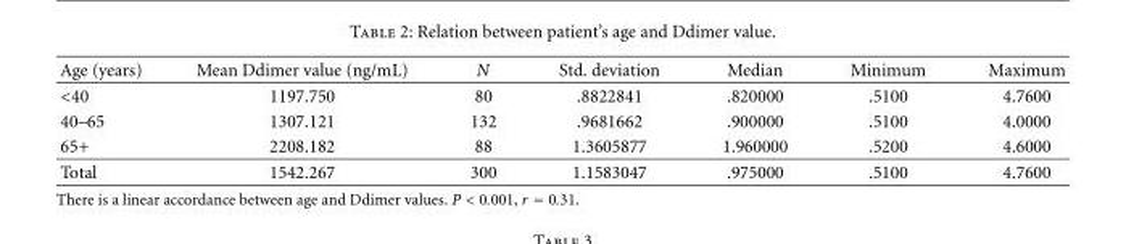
<table><thead><tr><td>Age (years)</td><td>Mean Ddimer value (ng/mL)</td><td>N</td><td>Std. deviation</td><td>Median</td><td>Minimum</td><td>Maximum</td></tr></thead><tbody><tr><td>&lt;40</td><td>1197.750</td><td>80</td><td>.8822841</td><td>.820000</td><td>.5100</td><td>4.7600</td></tr><tr><td>40–65</td><td>1307.121</td><td>132</td><td>.9681662</td><td>.900000</td><td>.5100</td><td>4.0000</td></tr><tr><td>65+</td><td>2208.182</td><td>88</td><td>1.3605877</td><td>1.960000</td><td>.5200</td><td>4.6000</td></tr><tr><td>Total</td><td>1542.267</td><td>300</td><td>1.1583047</td><td>.975000</td><td>.5100</td><td>4.7600</td></tr></tbody></table>